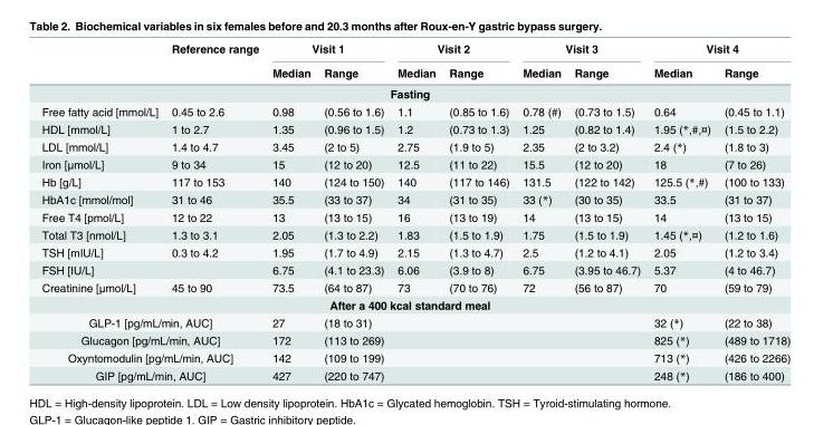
<table><thead><tr><td rowspan="2"></td><td rowspan="2">Reference range</td><td colspan="2">Visit 1</td><td colspan="2">Visit 2</td><td colspan="2">Visit 3</td><td colspan="2">Visit 4</td></tr><tr><td>Median</td><td>Range</td><td>Median</td><td>Range</td><td>Median</td><td>Range</td><td>Median</td><td>Range</td></tr></thead><tbody><tr><td colspan="10">Fasting</td></tr><tr><td>Free fatty acid [mmol/L]</td><td>0.45 to 2.6</td><td>0.98</td><td>(0.56 to 1.6)</td><td>1.1</td><td>(0.85 to 1.6)</td><td>0.78 (#)</td><td>(0.73 to 1.5)</td><td>0.64</td><td>(0.45 to 1.1)</td></tr><tr><td>HDL [mmol/L]</td><td>1 to 2.7</td><td>1.35</td><td>(0.96 to 1.5)</td><td>1.2</td><td>(0.73 to 1.3)</td><td>1.25</td><td>(0.82 to 1.4)</td><td>1.95 (*,#,¤)</td><td>(1.5 to 2.2)</td></tr><tr><td>LDL [mmol/L]</td><td>1.4 to 4.7</td><td>3.45</td><td>(2 to 5)</td><td>2.75</td><td>(1.9 to 5)</td><td>2.35</td><td>(2 to 3.2)</td><td>2.4 (*)</td><td>(1.8 to 3)</td></tr><tr><td>Iron [µmol/L]</td><td>9 to 34</td><td>15</td><td>(12 to 20)</td><td>12.5</td><td>(11 to 22)</td><td>15.5</td><td>(12 to 20)</td><td>18</td><td>(7 to 26)</td></tr><tr><td>Hb [g/L]</td><td>117 to 153</td><td>140</td><td>(124 to 150)</td><td>140</td><td>(117 to 146)</td><td>131.5</td><td>(122 to 142)</td><td>125.5 (*,#)</td><td>(100 to 133)</td></tr><tr><td>HbA1c [mmol/mol]</td><td>31 to 46</td><td>35.5</td><td>(33 to 37)</td><td>34</td><td>(31 to 35)</td><td>33 (*)</td><td>(30 to 35)</td><td>33.5</td><td>(31 to 37)</td></tr><tr><td>Free T4 [pmol/L]</td><td>12 to 22</td><td>13</td><td>(13 to 15)</td><td>16</td><td>(13 to 19)</td><td>14</td><td>(13 to 15)</td><td>14</td><td>(13 to 15)</td></tr><tr><td>Total T3 [nmol/L]</td><td>1.3 to 3.1</td><td>2.05</td><td>(1.3 to 2.2)</td><td>1.83</td><td>(1.5 to 1.9)</td><td>1.75</td><td>(1.5 to 1.9)</td><td>1.45 (*,¤)</td><td>(1.2 to 1.6)</td></tr><tr><td>TSH [mIU/L]</td><td>0.3 to 4.2</td><td>1.95</td><td>(1.7 to 4.9)</td><td>2.15</td><td>(1.3 to 4.7)</td><td>2.5</td><td>(1.2 to 4.1)</td><td>2.05</td><td>(1.2 to 3.4)</td></tr><tr><td>FSH [IU/L]</td><td></td><td>6.75</td><td>(4.1 to 23.3)</td><td>6.06</td><td>(3.9 to 8)</td><td>6.75</td><td>(3.95 to 46.7)</td><td>5.37</td><td>(4 to 46.7)</td></tr><tr><td>Creatinine [µmol/L]</td><td>45 to 90</td><td>73.5</td><td>(64 to 87)</td><td>73</td><td>(70 to 76)</td><td>72</td><td>(56 to 87)</td><td>70</td><td>(59 to 79)</td></tr><tr><td colspan="10">After a 400 kcal standard meal</td></tr><tr><td colspan="2">GLP-1 [pg/mL/min, AUC]</td><td>27</td><td>(18 to 31)</td><td colspan="4"></td><td>32 (*)</td><td>(22 to 38)</td></tr><tr><td colspan="2">Glucagon [pg/mL/min, AUC]</td><td>172</td><td>(113 to 269)</td><td colspan="4"></td><td>825 (*)</td><td>(489 to 1718)</td></tr><tr><td colspan="2">Oxyntomodulin [pg/mL/min, AUC]</td><td>142</td><td>(109 to 199)</td><td colspan="4"></td><td>713 (*)</td><td>(426 to 2266)</td></tr><tr><td colspan="2">GIP [pg/mL/min, AUC]</td><td>427</td><td>(220 to 747)</td><td colspan="4"></td><td>248 (*)</td><td>(186 to 400)</td></tr></tbody></table>